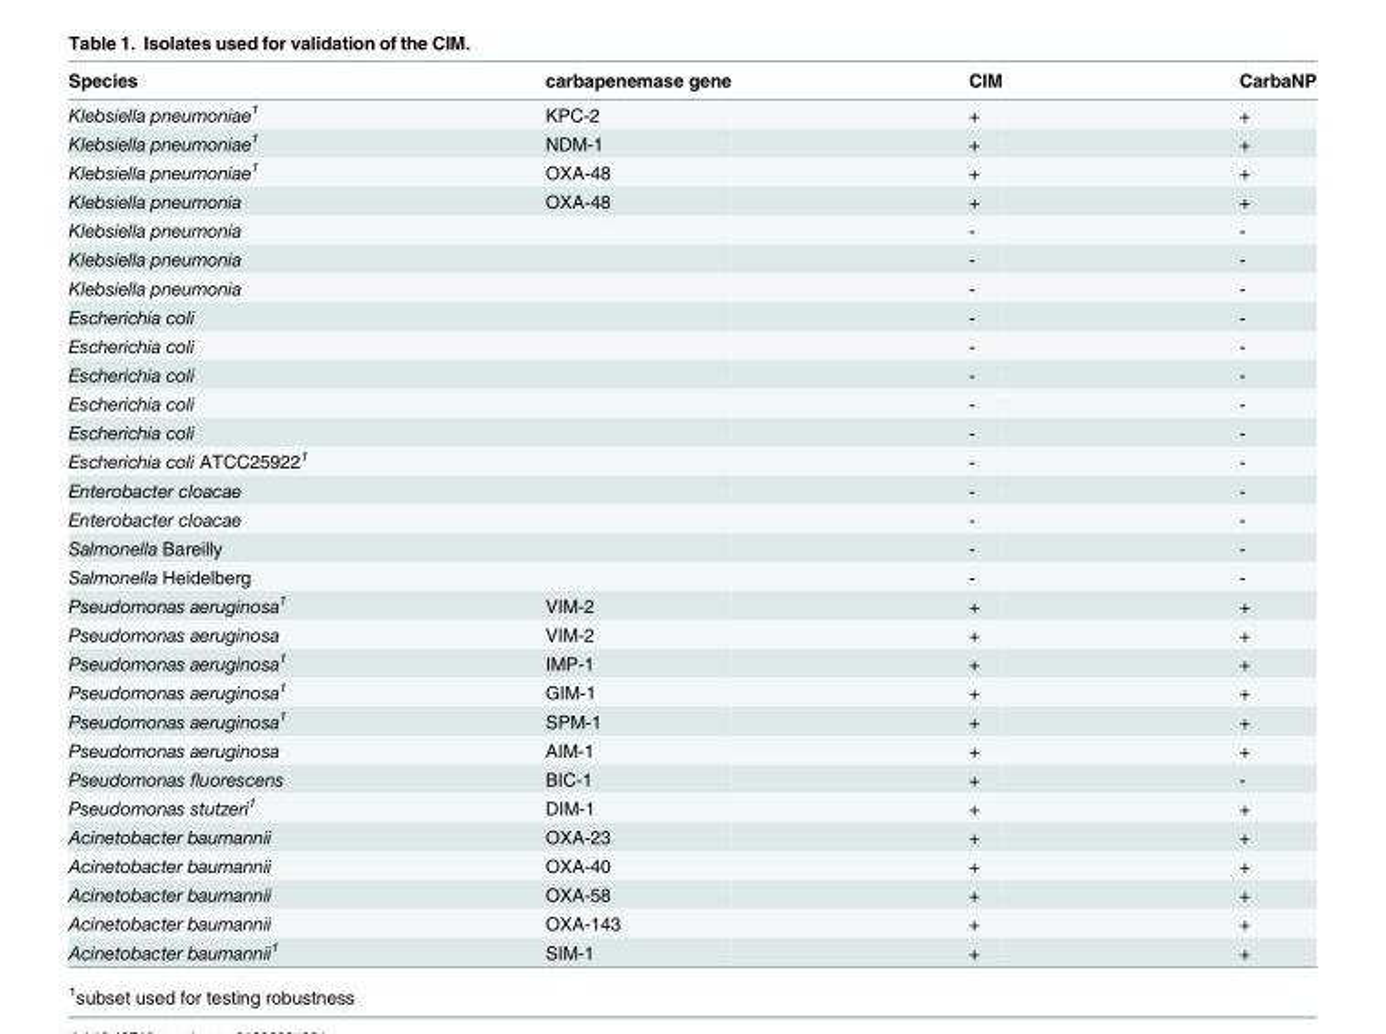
<table><thead><tr><td>Species</td><td>carbapenemase gene</td><td>CIM</td><td>CarbaNP</td></tr></thead><tbody><tr><td>Klebsiella pneumoniae<sup>1</sup></td><td>KPC-2</td><td>+</td><td>+</td></tr><tr><td>Klebsiella pneumoniae<sup>1</sup></td><td>NDM-1</td><td>+</td><td>+</td></tr><tr><td>Klebsiella pneumoniae<sup>1</sup></td><td>OXA-48</td><td>+</td><td>+</td></tr><tr><td>Klebsiella pneumonia</td><td>OXA-48</td><td>+</td><td>+</td></tr><tr><td>Klebsiella pneumonia</td><td></td><td>-</td><td>-</td></tr><tr><td>Klebsiella pneumonia</td><td></td><td>-</td><td>-</td></tr><tr><td>Klebsiella pneumonia</td><td></td><td>-</td><td>-</td></tr><tr><td>Escherichia coli</td><td></td><td>-</td><td>-</td></tr><tr><td>Escherichia coli</td><td></td><td>-</td><td>-</td></tr><tr><td>Escherichia coli</td><td></td><td>-</td><td>-</td></tr><tr><td>Escherichia coli</td><td></td><td>-</td><td>-</td></tr><tr><td>Escherichia coli</td><td></td><td>-</td><td>-</td></tr><tr><td>Escherichia coli ATCC25922<sup>1</sup></td><td></td><td>-</td><td>-</td></tr><tr><td>Enterobacter cloacae</td><td></td><td>-</td><td>-</td></tr><tr><td>Enterobacter cloacae</td><td></td><td>-</td><td>-</td></tr><tr><td>Salmonella Bareilly</td><td></td><td>-</td><td>-</td></tr><tr><td>Salmonella Heidelberg</td><td></td><td>-</td><td>-</td></tr><tr><td>Pseudomonas aeruginosa<sup>1</sup></td><td>VIM-2</td><td>+</td><td>+</td></tr><tr><td>Pseudomonas aeruginosa</td><td>VIM-2</td><td>+</td><td>+</td></tr><tr><td>Pseudomonas aeruginosa<sup>1</sup></td><td>IMP-1</td><td>+</td><td>+</td></tr><tr><td>Pseudomonas aeruginosa<sup>1</sup></td><td>GIM-1</td><td>+</td><td>+</td></tr><tr><td>Pseudomonas aeruginosa<sup>1</sup></td><td>SPM-1</td><td>+</td><td>+</td></tr><tr><td>Pseudomonas aeruginosa</td><td>AIM-1</td><td>+</td><td>+</td></tr><tr><td>Pseudomonas fluorescens</td><td>BIC-1</td><td>+</td><td>-</td></tr><tr><td>Pseudomonas stutzeri<sup>1</sup></td><td>DIM-1</td><td>+</td><td>+</td></tr><tr><td>Acinetobacter baumannii</td><td>OXA-23</td><td>+</td><td>+</td></tr><tr><td>Acinetobacter baumannii</td><td>OXA-40</td><td>+</td><td>+</td></tr><tr><td>Acinetobacter baumannii</td><td>OXA-58</td><td>+</td><td>+</td></tr><tr><td>Acinetobacter baumannii</td><td>OXA-143</td><td>+</td><td>+</td></tr><tr><td>Acinetobacter baumannii<sup>1</sup></td><td>SIM-1</td><td>+</td><td>+</td></tr></tbody></table>